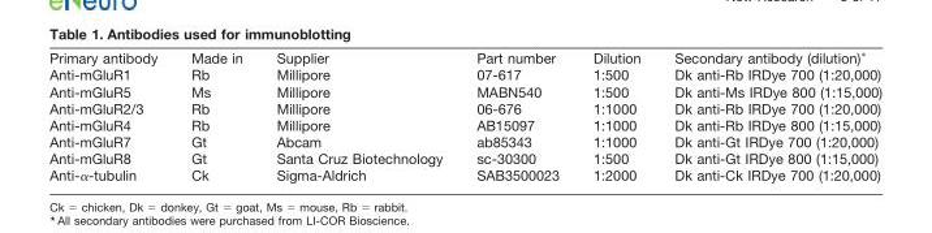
<table><thead><tr><td>Primary antibody</td><td>Made in</td><td>Supplier</td><td>Part number</td><td>Dilution</td><td>Secondary antibody (dilution)*</td></tr></thead><tbody><tr><td>Anti-mGluR1</td><td>Rb</td><td>Millipore</td><td>07-617</td><td>1:500</td><td>Dk anti-Rb IRDye 700 (1:20,000)</td></tr><tr><td>Anti-mGluR5</td><td>Ms</td><td>Millipore</td><td>MABN540</td><td>1:500</td><td>Dk anti-Ms IRDye 800 (1:15,000)</td></tr><tr><td>Anti-mGluR2/3</td><td>Rb</td><td>Millipore</td><td>06-676</td><td>1:1000</td><td>Dk anti-Rb IRDye 700 (1:20,000)</td></tr><tr><td>Anti-mGluR4</td><td>Rb</td><td>Millipore</td><td>AB15097</td><td>1:1000</td><td>Dk anti-Rb IRDye 800 (1:15,000)</td></tr><tr><td>Anti-mGluR7</td><td>Gt</td><td>Abcam</td><td>ab85343</td><td>1:1000</td><td>Dk anti-Gt IRDye 700 (1:20,000)</td></tr><tr><td>Anti-mGluR8</td><td>Gt</td><td>Santa Cruz Biotechnology</td><td>sc-30300</td><td>1:500</td><td>Dk anti-Gt IRDye 800 (1:15,000)</td></tr><tr><td>Anti-α-tubulin</td><td>Ck</td><td>Sigma-Aldrich</td><td>SAB3500023</td><td>1:2000</td><td>Dk anti-Ck IRDye 700 (1:20,000)</td></tr></tbody></table>